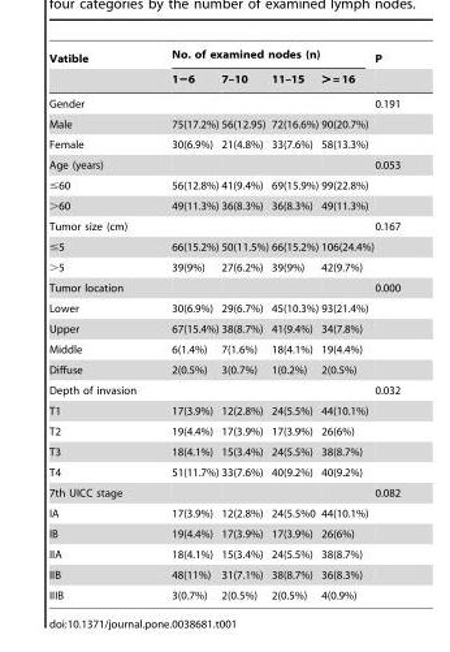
<table><thead><tr><td rowspan="2">Vatible</td><td colspan="4">No. of examined nodes (n)</td><td rowspan="2">P</td></tr><tr><td>1−6</td><td>7–10</td><td>11–15</td><td>&gt; = 16</td></tr></thead><tbody><tr><td>Gender</td><td></td><td></td><td></td><td></td><td>0.191</td></tr><tr><td>Male</td><td>75(17.2%)</td><td>56(12.95)</td><td>72(16.6%)</td><td>90(20.7%)</td><td></td></tr><tr><td>Female</td><td>30(6.9%)</td><td>21(4.8%)</td><td>33(7.6%)</td><td>58(13.3%)</td><td></td></tr><tr><td>Age (years)</td><td></td><td></td><td></td><td></td><td>0.053</td></tr><tr><td>≤60</td><td>56(12.8%)</td><td>41(9.4%)</td><td>69(15.9%)</td><td>99(22.8%)</td><td></td></tr><tr><td>&gt;60</td><td>49(11.3%)</td><td>36(8.3%)</td><td>36(8.3%)</td><td>49(11.3%)</td><td></td></tr><tr><td>Tumor size (cm)</td><td></td><td></td><td></td><td></td><td>0.167</td></tr><tr><td>≤5</td><td>66(15.2%)</td><td>50(11.5%)</td><td>66(15.2%)</td><td>106(24.4%)</td><td></td></tr><tr><td>&gt;5</td><td>39(9%)</td><td>27(6.2%)</td><td>39(9%)</td><td>42(9.7%)</td><td></td></tr><tr><td>Tumor location</td><td></td><td></td><td></td><td></td><td>0.000</td></tr><tr><td>Lower</td><td>30(6.9%)</td><td>29(6.7%)</td><td>45(10.3%)</td><td>93(21.4%)</td><td></td></tr><tr><td>Upper</td><td>67(15.4%)</td><td>38(8.7%)</td><td>41(9.4%)</td><td>34(7.8%)</td><td></td></tr><tr><td>Middle</td><td>6(1.4%)</td><td>7(1.6%)</td><td>18(4.1%)</td><td>19(4.4%)</td><td></td></tr><tr><td>Diffuse</td><td>2(0.5%)</td><td>3(0.7%)</td><td>1(0.2%)</td><td>2(0.5%)</td><td></td></tr><tr><td>Depth of invasion</td><td></td><td></td><td></td><td></td><td>0.032</td></tr><tr><td>T1</td><td>17(3.9%)</td><td>12(2.8%)</td><td>24(5.5%)</td><td>44(10.1%)</td><td></td></tr><tr><td>T2</td><td>19(4.4%)</td><td>17(3.9%)</td><td>17(3.9%)</td><td>26(6%)</td><td></td></tr><tr><td>T3</td><td>18(4.1%)</td><td>15(3.4%)</td><td>24(5.5%)</td><td>38(8.7%)</td><td></td></tr><tr><td>T4</td><td>51(11.7%)</td><td>33(7.6%)</td><td>40(9.2%)</td><td>40(9.2%)</td><td></td></tr><tr><td>7th UICC stage</td><td></td><td></td><td></td><td></td><td>0.082</td></tr><tr><td>IA</td><td>17(3.9%)</td><td>12(2.8%)</td><td>24(5.5%0</td><td>44(10.1%)</td><td></td></tr><tr><td>IB</td><td>19(4.4%)</td><td>17(3.9%)</td><td>17(3.9%)</td><td>26(6%)</td><td></td></tr><tr><td>IIA</td><td>18(4.1%)</td><td>15(3.4%)</td><td>24(5.5%)</td><td>38(8.7%)</td><td></td></tr><tr><td>IIB</td><td>48(11%)</td><td>31(7.1%)</td><td>38(8.7%)</td><td>36(8.3%)</td><td></td></tr><tr><td>IIIB</td><td>3(0.7%)</td><td>2(0.5%)</td><td>2(0.5%)</td><td>4(0.9%)</td><td></td></tr></tbody></table>